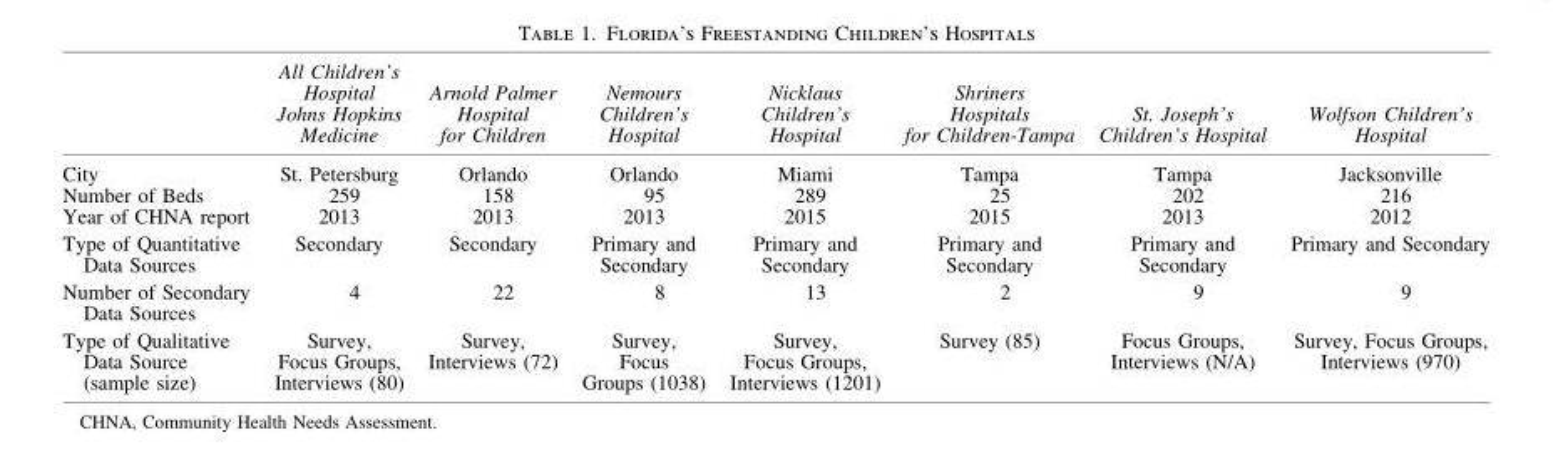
<table><thead><tr><td></td><td>All Children’s Hospital Johns Hopkins Medicine</td><td>Arnold Palmer Hospital for Children</td><td>Nemours Children’s Hospital</td><td>Nicklaus Children’s Hospital</td><td>Shriners Hospitals for Children-Tampa</td><td>St. Joseph’s Children’s Hospital</td><td>Wolfson Children’s Hospital</td></tr></thead><tbody><tr><td>City</td><td>St. Petersburg</td><td>Orlando</td><td>Orlando</td><td>Miami</td><td>Tampa</td><td>Tampa</td><td>Jacksonville</td></tr><tr><td>Number of Beds</td><td>259</td><td>158</td><td>95</td><td>289</td><td>25</td><td>202</td><td>216</td></tr><tr><td>Year of CHNA report</td><td>2013</td><td>2013</td><td>2013</td><td>2015</td><td>2015</td><td>2013</td><td>2012</td></tr><tr><td>Type of Quantitative Data Sources</td><td>Secondary</td><td>Secondary</td><td>Primary and Secondary</td><td>Primary and Secondary</td><td>Primary and Secondary</td><td>Primary and Secondary</td><td>Primary and Secondary</td></tr><tr><td>Number of Secondary Data Sources</td><td>4</td><td>22</td><td>8</td><td>13</td><td>2</td><td>9</td><td>9</td></tr><tr><td>Type of Qualitative Data Source (sample size)</td><td>Survey, Focus Groups, Interviews (80)</td><td>Survey, Interviews (72)</td><td>Survey, Focus Groups (1038)</td><td>Survey, Focus Groups, Interviews (1201)</td><td>Survey (85)</td><td>Focus Groups, Interviews (N/A)</td><td>Survey, Focus Groups, Interviews (970)</td></tr></tbody></table>